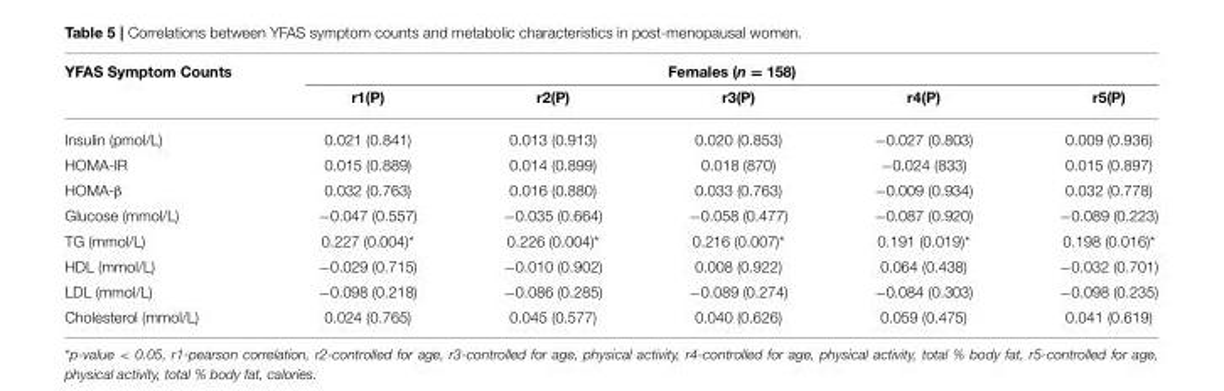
<table><thead><tr><td rowspan="2">YFAS Symptom Counts</td><td colspan="5">Females (n = 158)</td></tr><tr><td>r1(P)</td><td>r2(P)</td><td>r3(P)</td><td>r4(P)</td><td>r5(P)</td></tr></thead><tbody><tr><td>Insulin (pmol/L)</td><td>0.021 (0.841)</td><td>0.013 (0.913)</td><td>0.020 (0.853)</td><td>−0.027 (0.803)</td><td>0.009 (0.936)</td></tr><tr><td>HOMA-IR</td><td>0.015 (0.889)</td><td>0.014 (0.899)</td><td>0.018 (870)</td><td>−0.024 (833)</td><td>0.015 (0.897)</td></tr><tr><td>HOMA-β</td><td>0.032 (0.763)</td><td>0.016 (0.880)</td><td>0.033 (0.763)</td><td>−0.009 (0.934)</td><td>0.032 (0.778)</td></tr><tr><td>Glucose (mmol/L)</td><td>−0.047 (0.557)</td><td>−0.035 (0.664)</td><td>−0.058 (0.477)</td><td>−0.087 (0.920)</td><td>−0.089 (0.223)</td></tr><tr><td>TG (mmol/L)</td><td>0.227 (0.004)*</td><td>0.226 (0.004)*</td><td>0.216 (0.007)*</td><td>0.191 (0.019)*</td><td>0.198 (0.016)*</td></tr><tr><td>HDL (mmol/L)</td><td>−0.029 (0.715)</td><td>−0.010 (0.902)</td><td>0.008 (0.922)</td><td>0.064 (0.438)</td><td>−0.032 (0.701)</td></tr><tr><td>LDL (mmol/L)</td><td>−0.098 (0.218)</td><td>−0.086 (0.285)</td><td>−0.089 (0.274)</td><td>−0.084 (0.303)</td><td>−0.098 (0.235)</td></tr><tr><td>Cholesterol (mmol/L)</td><td>0.024 (0.765)</td><td>0.045 (0.577)</td><td>0.040 (0.626)</td><td>0.059 (0.475)</td><td>0.041 (0.619)</td></tr></tbody></table>